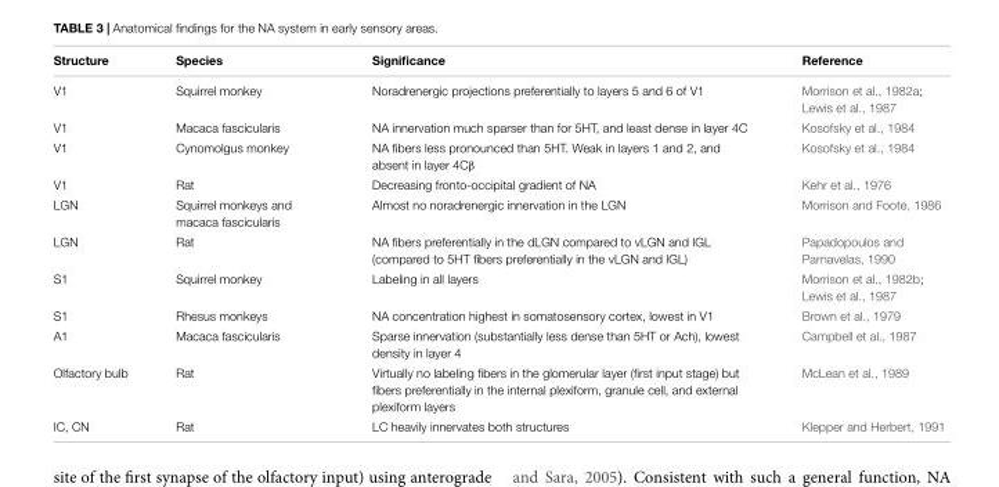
<table><thead><tr><td>Structure</td><td>Species</td><td>Significance</td><td>Reference</td></tr></thead><tbody><tr><td>V1</td><td>Squirrel monkey</td><td>Noradrenergic projections preferentially to layers 5 and 6 of V1</td><td>Morrison et al., 1982a; Lewis et al., 1987</td></tr><tr><td>V1</td><td>Macaca fascicularis</td><td>NA innervation much sparser than for 5HT, and least dense in layer 4C</td><td>Kosofsky et al., 1984</td></tr><tr><td>V1</td><td>Cynomolgus monkey</td><td>NA fibers less pronounced than 5HT. Weak in layers 1 and 2, and absent in layer 4Cβ</td><td>Kosofsky et al., 1984</td></tr><tr><td>V1</td><td>Rat</td><td>Decreasing fronto-occipital gradient of NA</td><td>Kehr et al., 1976</td></tr><tr><td>LGN</td><td>Squirrel monkeys and macaca fascicularis</td><td>Almost no noradrenergic innervation in the LGN</td><td>Morrison and Foote, 1986</td></tr><tr><td>LGN</td><td>Rat</td><td>NA fibers preferentially in the dLGN compared to vLGN and IGL (compared to 5HT fibers preferentially in the vLGN and IGL)</td><td>Papadopoulos and Parnavelas, 1990</td></tr><tr><td>S1</td><td>Squirrel monkey</td><td>Labeling in all layers</td><td>Morrison et al., 1982b; Lewis et al., 1987</td></tr><tr><td>S1</td><td>Rhesus monkeys</td><td>NA concentration highest in somatosensory cortex, lowest in V1</td><td>Brown et al., 1979</td></tr><tr><td>A1</td><td>Macaca fascicularis</td><td>Sparse innervation (substantially less dense than 5HT or Ach), lowest density in layer 4</td><td>Campbell et al., 1987</td></tr><tr><td>Olfactory bulb</td><td>Rat</td><td>Virtually no labeling fibers in the glomerular layer (first input stage) but fibers preferentially in the internal plexiform, granule cell, and external plexiform layers</td><td>McLean et al., 1989</td></tr><tr><td>IC, CN</td><td>Rat</td><td>LC heavily innervates both structures</td><td>Klepper and Herbert, 1991</td></tr></tbody></table>